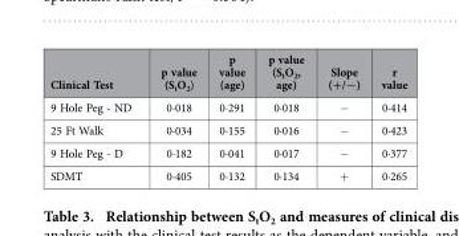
<table><thead><tr><td>Clinical Test</td><td>p value (S<sub>t</sub>O<sub>2</sub>)</td><td>p value (age)</td><td>p value (S<sub>t</sub>O<sub>2</sub>, age)</td><td>Slope (+/−)</td><td>r value</td></tr></thead><tbody><tr><td>9 Hole Peg - ND</td><td>0·018</td><td>0·291</td><td>0·018</td><td>−</td><td>0·414</td></tr><tr><td>25 Ft Walk</td><td>0·034</td><td>0·155</td><td>0·016</td><td>−</td><td>0·423</td></tr><tr><td>9 Hole Peg - D</td><td>0·182</td><td>0·041</td><td>0·017</td><td>−</td><td>0·377</td></tr><tr><td>SDMT</td><td>0·405</td><td>0·132</td><td>0·134</td><td>+</td><td>0·265</td></tr></tbody></table>